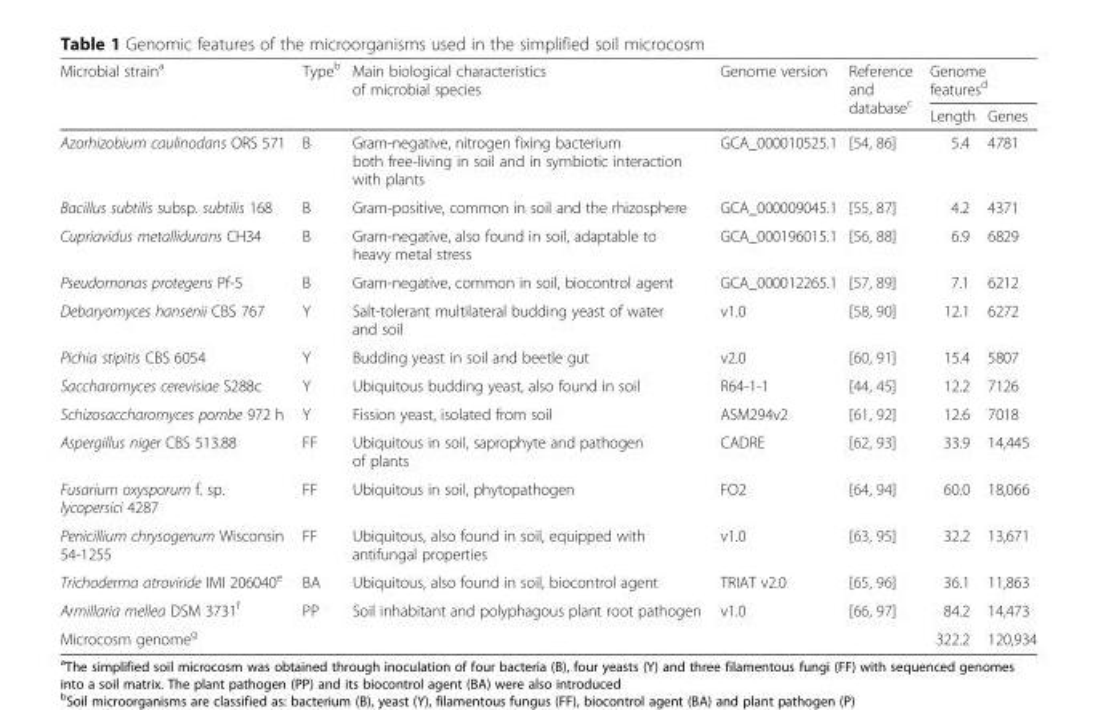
<table><thead><tr><td rowspan="2">Microbial strain<sup>a</sup></td><td rowspan="2">Type<sup>b</sup></td><td rowspan="2">Main biological characteristics of microbial species</td><td rowspan="2">Genome version</td><td rowspan="2">Reference and database<sup>c</sup></td><td colspan="2">Genome features<sup>d</sup></td></tr><tr><td>Length</td><td>Genes</td></tr></thead><tbody><tr><td>Azorhizobium caulinodans ORS 571</td><td>B</td><td>Gram-negative, nitrogen fixing bacterium both free-living in soil and in symbiotic interaction with plants</td><td>GCA_000010525.1</td><td>[54, 86]</td><td>5.4</td><td>4781</td></tr><tr><td>Bacillus subtilis subsp. subtilis 168</td><td>B</td><td>Gram-positive, common in soil and the rhizosphere</td><td>GCA_000009045.1</td><td>[55, 87]</td><td>4.2</td><td>4371</td></tr><tr><td>Cupriavidus metallidurans CH34</td><td>B</td><td>Gram-negative, also found in soil, adaptable to heavy metal stress</td><td>GCA_000196015.1</td><td>[56, 88]</td><td>6.9</td><td>6829</td></tr><tr><td>Pseudomonas protegens Pf-5</td><td>B</td><td>Gram-negative, common in soil, biocontrol agent</td><td>GCA_000012265.1</td><td>[57, 89]</td><td>7.1</td><td>6212</td></tr><tr><td>Debaryomyces hansenii CBS 767</td><td>Y</td><td>Salt-tolerant multilateral budding yeast of water and soil</td><td>v1.0</td><td>[58, 90]</td><td>12.1</td><td>6272</td></tr><tr><td>Pichia stipitis CBS 6054</td><td>Y</td><td>Budding yeast in soil and beetle gut</td><td>v2.0</td><td>[60, 91]</td><td>15.4</td><td>5807</td></tr><tr><td>Saccharomyces cerevisiae S288c</td><td>Y</td><td>Ubiquitous budding yeast, also found in soil</td><td>R64-1-1</td><td>[44, 45]</td><td>12.2</td><td>7126</td></tr><tr><td>Schizosaccharomyces pombe 972 h</td><td>Y</td><td>Fission yeast, isolated from soil</td><td>ASM294v2</td><td>[61, 92]</td><td>12.6</td><td>7018</td></tr><tr><td>Aspergillus niger CBS 513.88</td><td>FF</td><td>Ubiquitous in soil, saprophyte and pathogen of plants</td><td>CADRE</td><td>[62, 93]</td><td>33.9</td><td>14,445</td></tr><tr><td>Fusarium oxysporum f. sp. lycopersici 4287</td><td>FF</td><td>Ubiquitous in soil, phytopathogen</td><td>FO2</td><td>[64, 94]</td><td>60.0</td><td>18,066</td></tr><tr><td>Penicillium chrysogenum Wisconsin 54-1255</td><td>FF</td><td>Ubiquitous, also found in soil, equipped with antifungal properties</td><td>v1.0</td><td>[63, 95]</td><td>32.2</td><td>13,671</td></tr><tr><td>Trichoderma atroviride IMI 206040<sup>e</sup></td><td>BA</td><td>Ubiquitous, also found in soil, biocontrol agent</td><td>TRIAT v2.0</td><td>[65, 96]</td><td>36.1</td><td>11,863</td></tr><tr><td>Armillaria mellea DSM 3731<sup>f</sup></td><td>PP</td><td>Soil inhabitant and polyphagous plant root pathogen</td><td>v1.0</td><td>[66, 97]</td><td>84.2</td><td>14,473</td></tr><tr><td>Microcosm genome<sup>g</sup></td><td></td><td></td><td></td><td></td><td>322.2</td><td>120,934</td></tr></tbody></table>